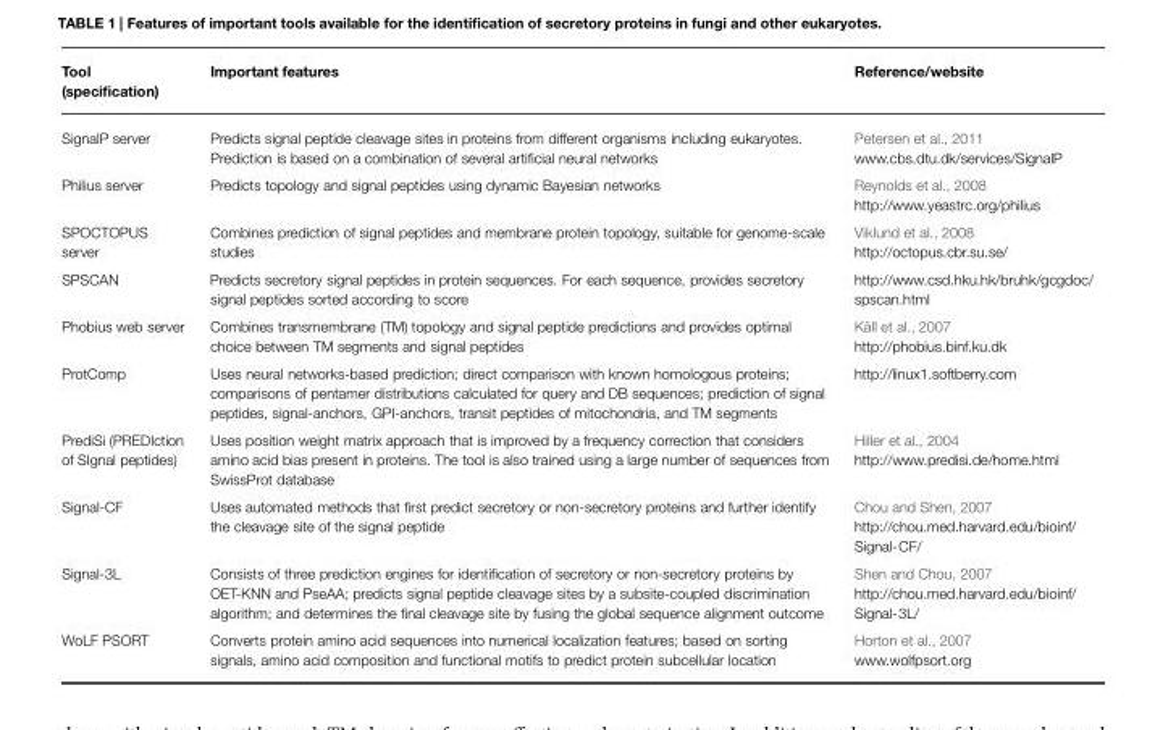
<table><thead><tr><td>Tool (specification)</td><td>Important features</td><td>Reference/website</td></tr></thead><tbody><tr><td>SignalP server</td><td>Predicts signal peptide cleavage sites in proteins from different organisms including eukaryotes. Prediction is based on a combination of several artificial neural networks</td><td>Petersen et al., 2011 www.cbs.dtu.dk/services/SignalP</td></tr><tr><td>Philius server</td><td>Predicts topology and signal peptides using dynamic Bayesian networks</td><td>Reynolds et al., 2008 http://www.yeastrc.org/philius</td></tr><tr><td>SPOCTOPUS server</td><td>Combines prediction of signal peptides and membrane protein topology, suitable for genome-scale studies</td><td>Viklund et al., 2008 http://octopus.cbr.su.se/</td></tr><tr><td>SPSCAN</td><td>Predicts secretory signal peptides in protein sequences. For each sequence, provides secretory signal peptides sorted according to score</td><td>http://www.csd.hku.hk/bruhk/gcgdoc/ spscan.html</td></tr><tr><td>Phobius web server</td><td>Combines transmembrane (TM) topology and signal peptide predictions and provides optimal choice between TM segments and signal peptides</td><td>Käll et al., 2007 http://phobius.binf.ku.dk</td></tr><tr><td>ProtComp</td><td>Uses neural networks-based prediction; direct comparison with known homologous proteins; comparisons of pentamer distributions calculated for query and DB sequences; prediction of signal peptides, signal-anchors, GPI-anchors, transit peptides of mitochondria, and TM segments</td><td>http://linux1.softberry.com</td></tr><tr><td>PrediSi (PREDIction of SIgnal peptides)</td><td>Uses position weight matrix approach that is improved by a frequency correction that considers amino acid bias present in proteins. The tool is also trained using a large number of sequences from SwissProt database</td><td>Hiller et al., 2004 http://www.predisi.de/home.html</td></tr><tr><td>Signal-CF</td><td>Uses automated methods that first predict secretory or non-secretory proteins and further identify the cleavage site of the signal peptide</td><td>Chou and Shen, 2007 http://chou.med.harvard.edu/bioinf/ Signal-CF/</td></tr><tr><td>Signal-3L</td><td>Consists of three prediction engines for identification of secretory or non-secretory proteins by OET-KNN and PseAA; predicts signal peptide cleavage sites by a subsite-coupled discrimination algorithm; and determines the final cleavage site by fusing the global sequence alignment outcome</td><td>Shen and Chou, 2007 http://chou.med.harvard.edu/bioinf/ Signal-3L/</td></tr><tr><td>WoLF PSORT</td><td>Converts protein amino acid sequences into numerical localization features; based on sorting signals, amino acid composition and functional motifs to predict protein subcellular location</td><td>Horton et al., 2007 www.wolfpsort.org</td></tr></tbody></table>